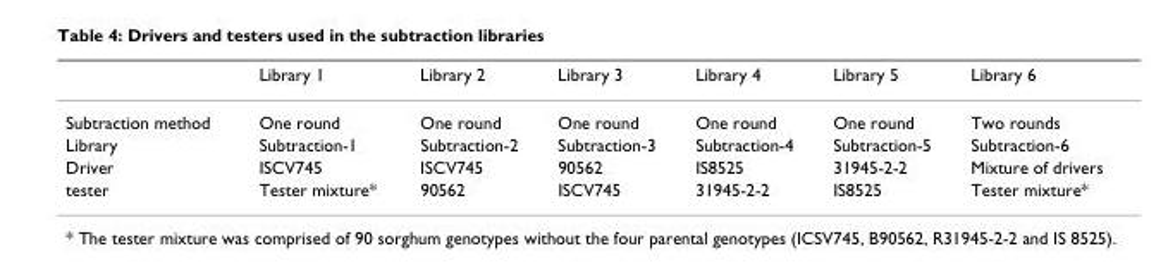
<table><thead><tr><td></td><td>Library 1</td><td>Library 2</td><td>Library 3</td><td>Library 4</td><td>Library 5</td><td>Library 6</td></tr></thead><tbody><tr><td>Subtraction method</td><td>One round</td><td>One round</td><td>One round</td><td>One round</td><td>One round</td><td>Two rounds</td></tr><tr><td>Library</td><td>Subtraction-1</td><td>Subtraction-2</td><td>Subtraction-3</td><td>Subtraction-4</td><td>Subtraction-5</td><td>Subtraction-6</td></tr><tr><td>Driver</td><td>ISCV745</td><td>ISCV745</td><td>90562</td><td>IS8525</td><td>31945-2-2</td><td>Mixture of drivers</td></tr><tr><td>tester</td><td>Tester mixture*</td><td>90562</td><td>ISCV745</td><td>31945-2-2</td><td>IS8525</td><td>Tester mixture*</td></tr></tbody></table>